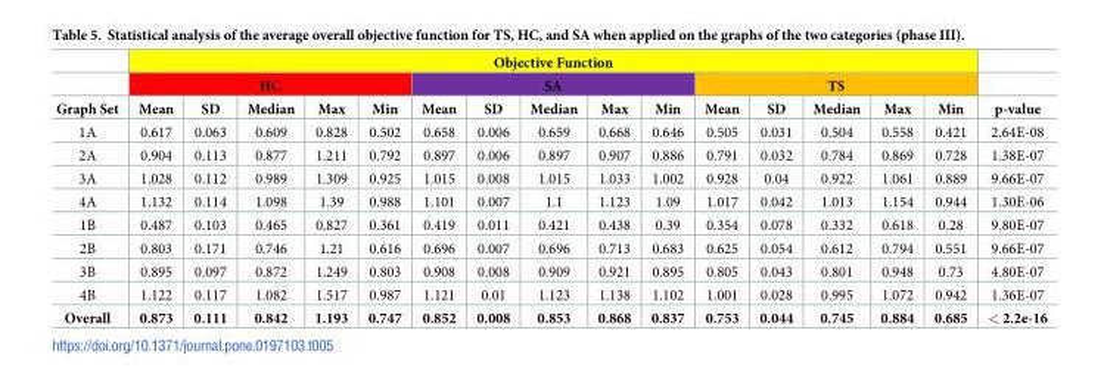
<table><thead><tr><td rowspan="3">Graph Set</td><td colspan="15">Objective Function</td><td rowspan="3">p-value</td></tr><tr><td colspan="5">HC</td><td colspan="5">SA</td><td colspan="5">TS</td></tr><tr><td>Mean</td><td>SD</td><td>Median</td><td>Max</td><td>Min</td><td>Mean</td><td>SD</td><td>Median</td><td>Max</td><td>Min</td><td>Mean</td><td>SD</td><td>Median</td><td>Max</td><td>Min</td></tr></thead><tbody><tr><td>1A</td><td>0.617</td><td>0.063</td><td>0.609</td><td>0.828</td><td>0.502</td><td>0.658</td><td>0.006</td><td>0.659</td><td>0.668</td><td>0.646</td><td>0.505</td><td>0.031</td><td>0.504</td><td>0.558</td><td>0.421</td><td>2.64E-08</td></tr><tr><td>2A</td><td>0.904</td><td>0.113</td><td>0.877</td><td>1.211</td><td>0.792</td><td>0.897</td><td>0.006</td><td>0.897</td><td>0.907</td><td>0.886</td><td>0.791</td><td>0.032</td><td>0.784</td><td>0.869</td><td>0.728</td><td>1.38E-07</td></tr><tr><td>3A</td><td>1.028</td><td>0.112</td><td>0.989</td><td>1.309</td><td>0.925</td><td>1.015</td><td>0.008</td><td>1.015</td><td>1.033</td><td>1.002</td><td>0.928</td><td>0.04</td><td>0.922</td><td>1.061</td><td>0.889</td><td>9.66E-07</td></tr><tr><td>4A</td><td>1.132</td><td>0.114</td><td>1.098</td><td>1.39</td><td>0.988</td><td>1.101</td><td>0.007</td><td>1.1</td><td>1.123</td><td>1.09</td><td>1.017</td><td>0.042</td><td>1.013</td><td>1.154</td><td>0.944</td><td>1.30E-06</td></tr><tr><td>1B</td><td>0.487</td><td>0.103</td><td>0.465</td><td>0.827</td><td>0.361</td><td>0.419</td><td>0.011</td><td>0.421</td><td>0.438</td><td>0.39</td><td>0.354</td><td>0.078</td><td>0.332</td><td>0.618</td><td>0.28</td><td>9.80E-07</td></tr><tr><td>2B</td><td>0.803</td><td>0.171</td><td>0.746</td><td>1.21</td><td>0.616</td><td>0.696</td><td>0.007</td><td>0.696</td><td>0.713</td><td>0.683</td><td>0.625</td><td>0.054</td><td>0.612</td><td>0.794</td><td>0.551</td><td>9.66E-07</td></tr><tr><td>3B</td><td>0.895</td><td>0.097</td><td>0.872</td><td>1.249</td><td>0.803</td><td>0.908</td><td>0.008</td><td>0.909</td><td>0.921</td><td>0.895</td><td>0.805</td><td>0.043</td><td>0.801</td><td>0.948</td><td>0.73</td><td>4.80E-07</td></tr><tr><td>4B</td><td>1.122</td><td>0.117</td><td>1.082</td><td>1.517</td><td>0.987</td><td>1.121</td><td>0.01</td><td>1.123</td><td>1.138</td><td>1.102</td><td>1.001</td><td>0.028</td><td>0.995</td><td>1.072</td><td>0.942</td><td>1.36E-07</td></tr><tr><td>Overall</td><td>0.873</td><td>0.111</td><td>0.842</td><td>1.193</td><td>0.747</td><td>0.852</td><td>0.008</td><td>0.853</td><td>0.868</td><td>0.837</td><td>0.753</td><td>0.044</td><td>0.745</td><td>0.884</td><td>0.685</td><td>&lt; 2.2e-16</td></tr></tbody></table>